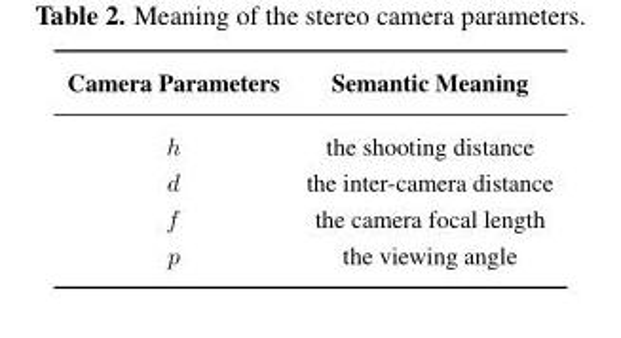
<table><thead><tr><td>Camera Parameters</td><td>Semantic Meaning</td></tr></thead><tbody><tr><td>h</td><td>the shooting distance</td></tr><tr><td>d</td><td>the inter-camera distance</td></tr><tr><td>f</td><td>the camera focal length</td></tr><tr><td>p</td><td>the viewing angle</td></tr></tbody></table>